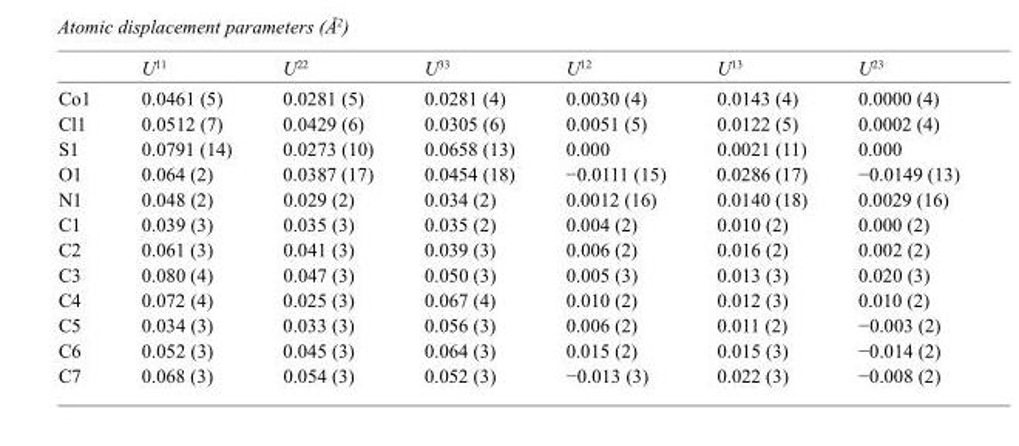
<table><thead><tr><td></td><td>U<sup>11</sup></td><td>U<sup>22</sup></td><td>U<sup>33</sup></td><td>U<sup>12</sup></td><td>U<sup>13</sup></td><td>U<sup>23</sup></td></tr></thead><tbody><tr><td>Co1</td><td>0.0461 (5)</td><td>0.0281 (5)</td><td>0.0281 (4)</td><td>0.0030 (4)</td><td>0.0143 (4)</td><td>0.0000 (4)</td></tr><tr><td>Cl1</td><td>0.0512 (7)</td><td>0.0429 (6)</td><td>0.0305 (6)</td><td>0.0051 (5)</td><td>0.0122 (5)</td><td>0.0002 (4)</td></tr><tr><td>S1</td><td>0.0791 (14)</td><td>0.0273 (10)</td><td>0.0658 (13)</td><td>0.000</td><td>0.0021 (11)</td><td>0.000</td></tr><tr><td>O1</td><td>0.064 (2)</td><td>0.0387 (17)</td><td>0.0454 (18)</td><td>−0.0111 (15)</td><td>0.0286 (17)</td><td>−0.0149 (13)</td></tr><tr><td>N1</td><td>0.048 (2)</td><td>0.029 (2)</td><td>0.034 (2)</td><td>0.0012 (16)</td><td>0.0140 (18)</td><td>0.0029 (16)</td></tr><tr><td>C1</td><td>0.039 (3)</td><td>0.035 (3)</td><td>0.035 (2)</td><td>0.004 (2)</td><td>0.010 (2)</td><td>0.000 (2)</td></tr><tr><td>C2</td><td>0.061 (3)</td><td>0.041 (3)</td><td>0.039 (3)</td><td>0.006 (2)</td><td>0.016 (2)</td><td>0.002 (2)</td></tr><tr><td>C3</td><td>0.080 (4)</td><td>0.047 (3)</td><td>0.050 (3)</td><td>0.005 (3)</td><td>0.013 (3)</td><td>0.020 (3)</td></tr><tr><td>C4</td><td>0.072 (4)</td><td>0.025 (3)</td><td>0.067 (4)</td><td>0.010 (2)</td><td>0.012 (3)</td><td>0.010 (2)</td></tr><tr><td>C5</td><td>0.034 (3)</td><td>0.033 (3)</td><td>0.056 (3)</td><td>0.006 (2)</td><td>0.011 (2)</td><td>−0.003 (2)</td></tr><tr><td>C6</td><td>0.052 (3)</td><td>0.045 (3)</td><td>0.064 (3)</td><td>0.015 (2)</td><td>0.015 (3)</td><td>−0.014 (2)</td></tr><tr><td>C7</td><td>0.068 (3)</td><td>0.054 (3)</td><td>0.052 (3)</td><td>−0.013 (3)</td><td>0.022 (3)</td><td>−0.008 (2)</td></tr></tbody></table>